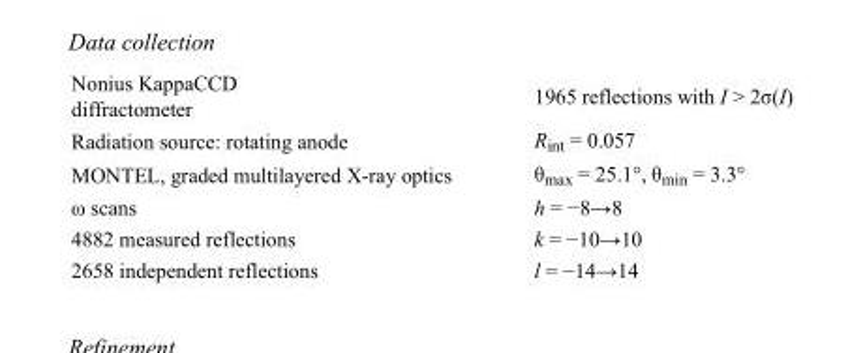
<table><tbody><tr><td>Nonius KappaCCD diffractometer</td><td>1965 reflections with I &gt; 2σ(I)</td></tr><tr><td>Radiation source: rotating anode</td><td>R<sub>int</sub> = 0.057</td></tr><tr><td>MONTEL, graded multilayered X-ray optics</td><td>θ<sub>max</sub> = 25.1°, θ<sub>min</sub> = 3.3°</td></tr><tr><td>ω scans</td><td>h = −8→8</td></tr><tr><td>4882 measured reflections</td><td>k = −10→10</td></tr><tr><td>2658 independent reflections</td><td>l = −14→14</td></tr></tbody></table>